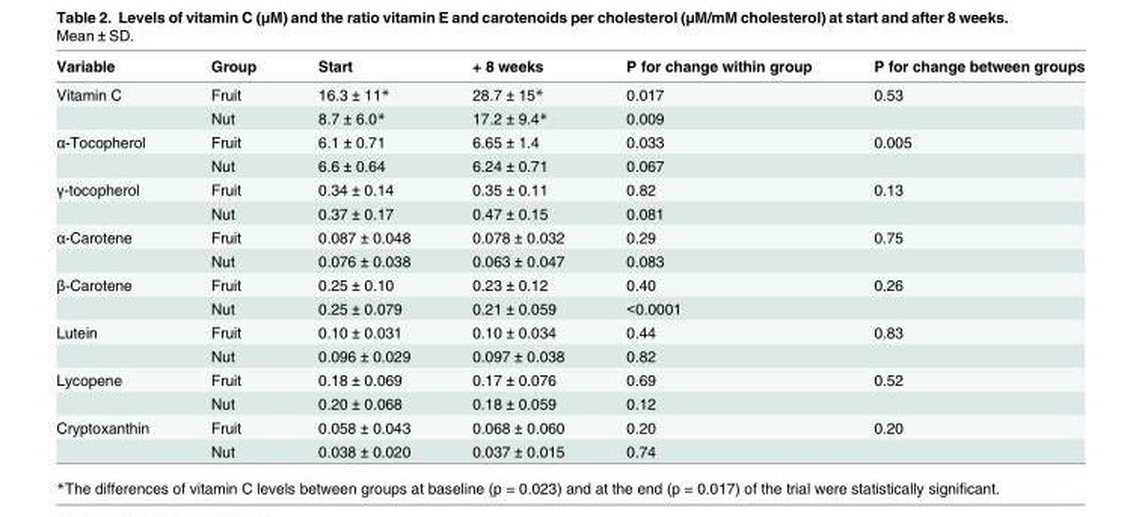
<table><thead><tr><td>Variable</td><td>Group</td><td>Start</td><td>+ 8 weeks</td><td>P for change within group</td><td>P for change between groups</td></tr></thead><tbody><tr><td rowspan="2">Vitamin C</td><td>Fruit</td><td>16.3 ± 11*</td><td>28.7 ± 15*</td><td>0.017</td><td>0.53</td></tr><tr><td>Nut</td><td>8.7 ± 6.0*</td><td>17.2 ± 9.4*</td><td>0.009</td><td></td></tr><tr><td rowspan="2">α-Tocopherol</td><td>Fruit</td><td>6.1 ± 0.71</td><td>6.65 ± 1.4</td><td>0.033</td><td>0.005</td></tr><tr><td>Nut</td><td>6.6 ± 0.64</td><td>6.24 ± 0.71</td><td>0.067</td><td></td></tr><tr><td rowspan="2">γ-tocopherol</td><td>Fruit</td><td>0.34 ± 0.14</td><td>0.35 ± 0.11</td><td>0.82</td><td>0.13</td></tr><tr><td>Nut</td><td>0.37 ± 0.17</td><td>0.47 ± 0.15</td><td>0.081</td><td></td></tr><tr><td rowspan="2">α-Carotene</td><td>Fruit</td><td>0.087 ± 0.048</td><td>0.078 ± 0.032</td><td>0.29</td><td>0.75</td></tr><tr><td>Nut</td><td>0.076 ± 0.038</td><td>0.063 ± 0.047</td><td>0.083</td><td></td></tr><tr><td rowspan="2">β-Carotene</td><td>Fruit</td><td>0.25 ± 0.10</td><td>0.23 ± 0.12</td><td>0.40</td><td>0.26</td></tr><tr><td>Nut</td><td>0.25 ± 0.079</td><td>0.21 ± 0.059</td><td>&lt;0.0001</td><td></td></tr><tr><td rowspan="2">Lutein</td><td>Fruit</td><td>0.10 ± 0.031</td><td>0.10 ± 0.034</td><td>0.44</td><td>0.83</td></tr><tr><td>Nut</td><td>0.096 ± 0.029</td><td>0.097 ± 0.038</td><td>0.82</td><td></td></tr><tr><td rowspan="2">Lycopene</td><td>Fruit</td><td>0.18 ± 0.069</td><td>0.17 ± 0.076</td><td>0.69</td><td>0.52</td></tr><tr><td>Nut</td><td>0.20 ± 0.068</td><td>0.18 ± 0.059</td><td>0.12</td><td></td></tr><tr><td rowspan="2">Cryptoxanthin</td><td>Fruit</td><td>0.058 ± 0.043</td><td>0.068 ± 0.060</td><td>0.20</td><td>0.20</td></tr><tr><td>Nut</td><td>0.038 ± 0.020</td><td>0.037 ± 0.015</td><td>0.74</td><td></td></tr></tbody></table>